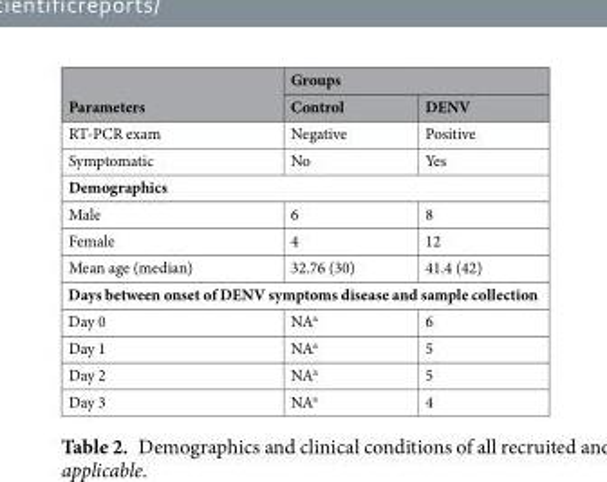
<table><thead><tr><td rowspan="2">Parameters</td><td colspan="2">Groups</td></tr><tr><td>Control</td><td>DENV</td></tr></thead><tbody><tr><td>RT-PCR exam</td><td>Negative</td><td>Positive</td></tr><tr><td>Symptomatic</td><td>No</td><td>Yes</td></tr><tr><td colspan="3">Demographics</td></tr><tr><td>Male</td><td>6</td><td>8</td></tr><tr><td>Female</td><td>4</td><td>12</td></tr><tr><td>Mean age (median)</td><td>32.76 (30)</td><td>41.4 (42)</td></tr><tr><td colspan="3">Days between onset of DENV symptoms disease and sample collection</td></tr><tr><td>Day 0</td><td>NA<sup>a</sup></td><td>6</td></tr><tr><td>Day 1</td><td>NA<sup>a</sup></td><td>5</td></tr><tr><td>Day 2</td><td>NA<sup>a</sup></td><td>5</td></tr><tr><td>Day 3</td><td>NA<sup>a</sup></td><td>4</td></tr></tbody></table>